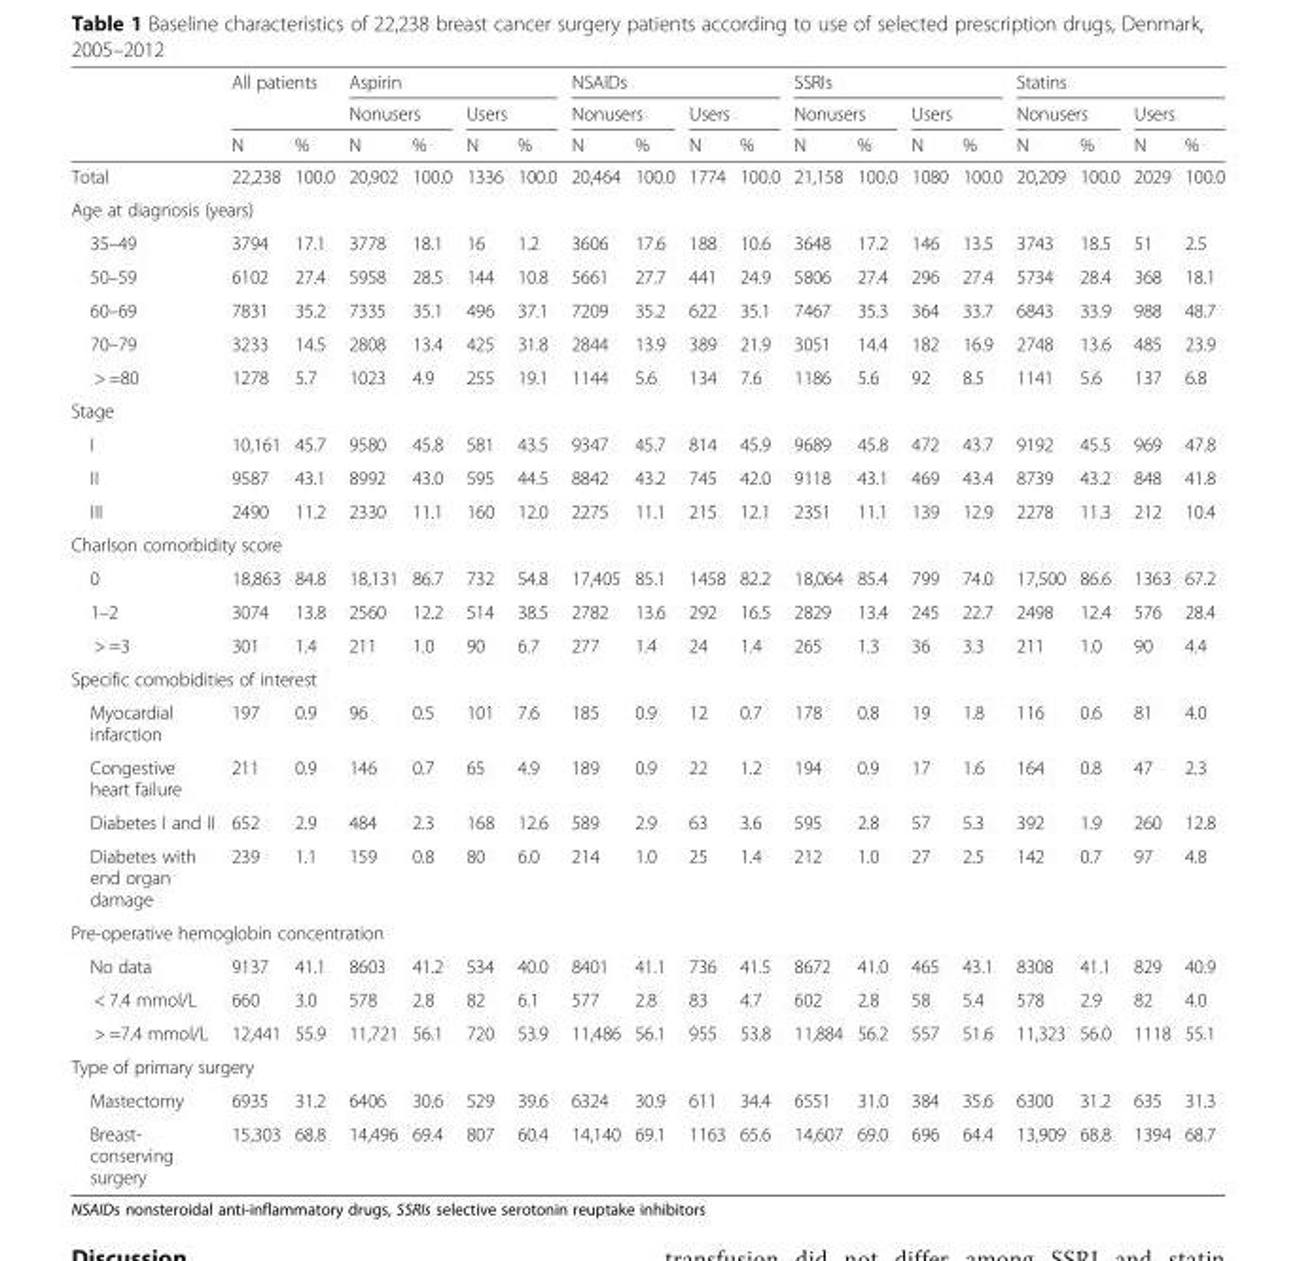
<table><thead><tr><td rowspan="3"></td><td rowspan="2" colspan="2">All patients</td><td colspan="4">Aspirin</td><td colspan="4">NSAIDs</td><td colspan="4">SSRIs</td><td colspan="4">Statins</td></tr><tr><td colspan="2">Nonusers</td><td colspan="2">Users</td><td colspan="2">Nonusers</td><td colspan="2">Users</td><td colspan="2">Nonusers</td><td colspan="2">Users</td><td colspan="2">Nonusers</td><td colspan="2">Users</td></tr><tr><td>N</td><td>%</td><td>N</td><td>%</td><td>N</td><td>%</td><td>N</td><td>%</td><td>N</td><td>%</td><td>N</td><td>%</td><td>N</td><td>%</td><td>N</td><td>%</td><td>N</td><td>%</td></tr></thead><tbody><tr><td>Total</td><td>22,238</td><td>100.0</td><td>20,902</td><td>100.0</td><td>1336</td><td>100.0</td><td>20,464</td><td>100.0</td><td>1774</td><td>100.0</td><td>21,158</td><td>100.0</td><td>1080</td><td>100.0</td><td>20,209</td><td>100.0</td><td>2029</td><td>100.0</td></tr><tr><td colspan="19">Age at diagnosis (years)</td></tr><tr><td>35–49</td><td>3794</td><td>17.1</td><td>3778</td><td>18.1</td><td>16</td><td>1.2</td><td>3606</td><td>17.6</td><td>188</td><td>10.6</td><td>3648</td><td>17.2</td><td>146</td><td>13.5</td><td>3743</td><td>18.5</td><td>51</td><td>2.5</td></tr><tr><td>50–59</td><td>6102</td><td>27.4</td><td>5958</td><td>28.5</td><td>144</td><td>10.8</td><td>5661</td><td>27.7</td><td>441</td><td>24.9</td><td>5806</td><td>27.4</td><td>296</td><td>27.4</td><td>5734</td><td>28.4</td><td>368</td><td>18.1</td></tr><tr><td>60–69</td><td>7831</td><td>35.2</td><td>7335</td><td>35.1</td><td>496</td><td>37.1</td><td>7209</td><td>35.2</td><td>622</td><td>35.1</td><td>7467</td><td>35.3</td><td>364</td><td>33.7</td><td>6843</td><td>33.9</td><td>988</td><td>48.7</td></tr><tr><td>70–79</td><td>3233</td><td>14.5</td><td>2808</td><td>13.4</td><td>425</td><td>31.8</td><td>2844</td><td>13.9</td><td>389</td><td>21.9</td><td>3051</td><td>14.4</td><td>182</td><td>16.9</td><td>2748</td><td>13.6</td><td>485</td><td>23.9</td></tr><tr><td>&gt; =80</td><td>1278</td><td>5.7</td><td>1023</td><td>4.9</td><td>255</td><td>19.1</td><td>1144</td><td>5.6</td><td>134</td><td>7.6</td><td>1186</td><td>5.6</td><td>92</td><td>8.5</td><td>1141</td><td>5.6</td><td>137</td><td>6.8</td></tr><tr><td colspan="19">Stage</td></tr><tr><td>I</td><td>10,161</td><td>45.7</td><td>9580</td><td>45.8</td><td>581</td><td>43.5</td><td>9347</td><td>45.7</td><td>814</td><td>45.9</td><td>9689</td><td>45.8</td><td>472</td><td>43.7</td><td>9192</td><td>45.5</td><td>969</td><td>47.8</td></tr><tr><td>II</td><td>9587</td><td>43.1</td><td>8992</td><td>43.0</td><td>595</td><td>44.5</td><td>8842</td><td>43.2</td><td>745</td><td>42.0</td><td>9118</td><td>43.1</td><td>469</td><td>43.4</td><td>8739</td><td>43.2</td><td>848</td><td>41.8</td></tr><tr><td>III</td><td>2490</td><td>11.2</td><td>2330</td><td>11.1</td><td>160</td><td>12.0</td><td>2275</td><td>11.1</td><td>215</td><td>12.1</td><td>2351</td><td>11.1</td><td>139</td><td>12.9</td><td>2278</td><td>11.3</td><td>212</td><td>10.4</td></tr><tr><td colspan="19">Charlson comorbidity score</td></tr><tr><td>0</td><td>18,863</td><td>84.8</td><td>18,131</td><td>86.7</td><td>732</td><td>54.8</td><td>17,405</td><td>85.1</td><td>1458</td><td>82.2</td><td>18,064</td><td>85.4</td><td>799</td><td>74.0</td><td>17,500</td><td>86.6</td><td>1363</td><td>67.2</td></tr><tr><td>1–2</td><td>3074</td><td>13.8</td><td>2560</td><td>12.2</td><td>514</td><td>38.5</td><td>2782</td><td>13.6</td><td>292</td><td>16.5</td><td>2829</td><td>13.4</td><td>245</td><td>22.7</td><td>2498</td><td>12.4</td><td>576</td><td>28.4</td></tr><tr><td>&gt; =3</td><td>301</td><td>1.4</td><td>211</td><td>1.0</td><td>90</td><td>6.7</td><td>277</td><td>1.4</td><td>24</td><td>1.4</td><td>265</td><td>1.3</td><td>36</td><td>3.3</td><td>211</td><td>1.0</td><td>90</td><td>4.4</td></tr><tr><td colspan="19">Specific comobidities of interest</td></tr><tr><td>Myocardial infarction</td><td>197</td><td>0.9</td><td>96</td><td>0.5</td><td>101</td><td>7.6</td><td>185</td><td>0.9</td><td>12</td><td>0.7</td><td>178</td><td>0.8</td><td>19</td><td>1.8</td><td>116</td><td>0.6</td><td>81</td><td>4.0</td></tr><tr><td>Congestive heart failure</td><td>211</td><td>0.9</td><td>146</td><td>0.7</td><td>65</td><td>4.9</td><td>189</td><td>0.9</td><td>22</td><td>1.2</td><td>194</td><td>0.9</td><td>17</td><td>1.6</td><td>164</td><td>0.8</td><td>47</td><td>2.3</td></tr><tr><td>Diabetes I and II</td><td>652</td><td>2.9</td><td>484</td><td>2.3</td><td>168</td><td>12.6</td><td>589</td><td>2.9</td><td>63</td><td>3.6</td><td>595</td><td>2.8</td><td>57</td><td>5.3</td><td>392</td><td>1.9</td><td>260</td><td>12.8</td></tr><tr><td>Diabetes with end organ damage</td><td>239</td><td>1.1</td><td>159</td><td>0.8</td><td>80</td><td>6.0</td><td>214</td><td>1.0</td><td>25</td><td>1.4</td><td>212</td><td>1.0</td><td>27</td><td>2.5</td><td>142</td><td>0.7</td><td>97</td><td>4.8</td></tr><tr><td colspan="19">Pre-operative hemoglobin concentration</td></tr><tr><td>No data</td><td>9137</td><td>41.1</td><td>8603</td><td>41.2</td><td>534</td><td>40.0</td><td>8401</td><td>41.1</td><td>736</td><td>41.5</td><td>8672</td><td>41.0</td><td>465</td><td>43.1</td><td>8308</td><td>41.1</td><td>829</td><td>40.9</td></tr><tr><td>&lt; 7.4 mmol/L</td><td>660</td><td>3.0</td><td>578</td><td>2.8</td><td>82</td><td>6.1</td><td>577</td><td>2.8</td><td>83</td><td>4.7</td><td>602</td><td>2.8</td><td>58</td><td>5.4</td><td>578</td><td>2.9</td><td>82</td><td>4.0</td></tr><tr><td>&gt; =7.4 mmol/L</td><td>12,441</td><td>55.9</td><td>11,721</td><td>56.1</td><td>720</td><td>53.9</td><td>11,486</td><td>56.1</td><td>955</td><td>53.8</td><td>11,884</td><td>56.2</td><td>557</td><td>51.6</td><td>11,323</td><td>56.0</td><td>1118</td><td>55.1</td></tr><tr><td colspan="19">Type of primary surgery</td></tr><tr><td>Mastectomy</td><td>6935</td><td>31.2</td><td>6406</td><td>30.6</td><td>529</td><td>39.6</td><td>6324</td><td>30.9</td><td>611</td><td>34.4</td><td>6551</td><td>31.0</td><td>384</td><td>35.6</td><td>6300</td><td>31.2</td><td>635</td><td>31.3</td></tr><tr><td>Breast- conserving surgery</td><td>15,303</td><td>68.8</td><td>14,496</td><td>69.4</td><td>807</td><td>60.4</td><td>14,140</td><td>69.1</td><td>1163</td><td>65.6</td><td>14,607</td><td>69.0</td><td>696</td><td>64.4</td><td>13,909</td><td>68.8</td><td>1394</td><td>68.7</td></tr></tbody></table>